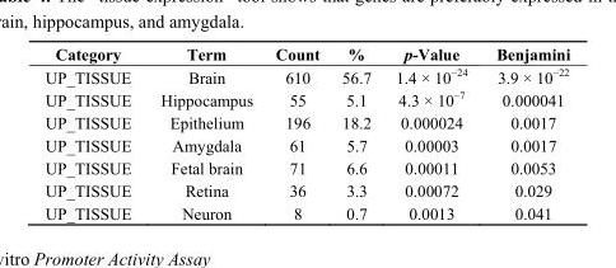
<table><thead><tr><td>Category</td><td>Term</td><td>Count</td><td>%</td><td>p-Value</td><td>Benjamini</td></tr></thead><tbody><tr><td>UP_TISSUE</td><td>Brain</td><td>610</td><td>56.7</td><td>1.4 × 10<sup>−24</sup></td><td>3.9 × 10<sup>−22</sup></td></tr><tr><td>UP_TISSUE</td><td>Hippocampus</td><td>55</td><td>5.1</td><td>4.3 × 10<sup>−7</sup></td><td>0.000041</td></tr><tr><td>UP_TISSUE</td><td>Epithelium</td><td>196</td><td>18.2</td><td>0.000024</td><td>0.0017</td></tr><tr><td>UP_TISSUE</td><td>Amygdala</td><td>61</td><td>5.7</td><td>0.00003</td><td>0.0017</td></tr><tr><td>UP_TISSUE</td><td>Fetal brain</td><td>71</td><td>6.6</td><td>0.00011</td><td>0.0053</td></tr><tr><td>UP_TISSUE</td><td>Retina</td><td>36</td><td>3.3</td><td>0.00072</td><td>0.029</td></tr><tr><td>UP_TISSUE</td><td>Neuron</td><td>8</td><td>0.7</td><td>0.0013</td><td>0.041</td></tr></tbody></table>